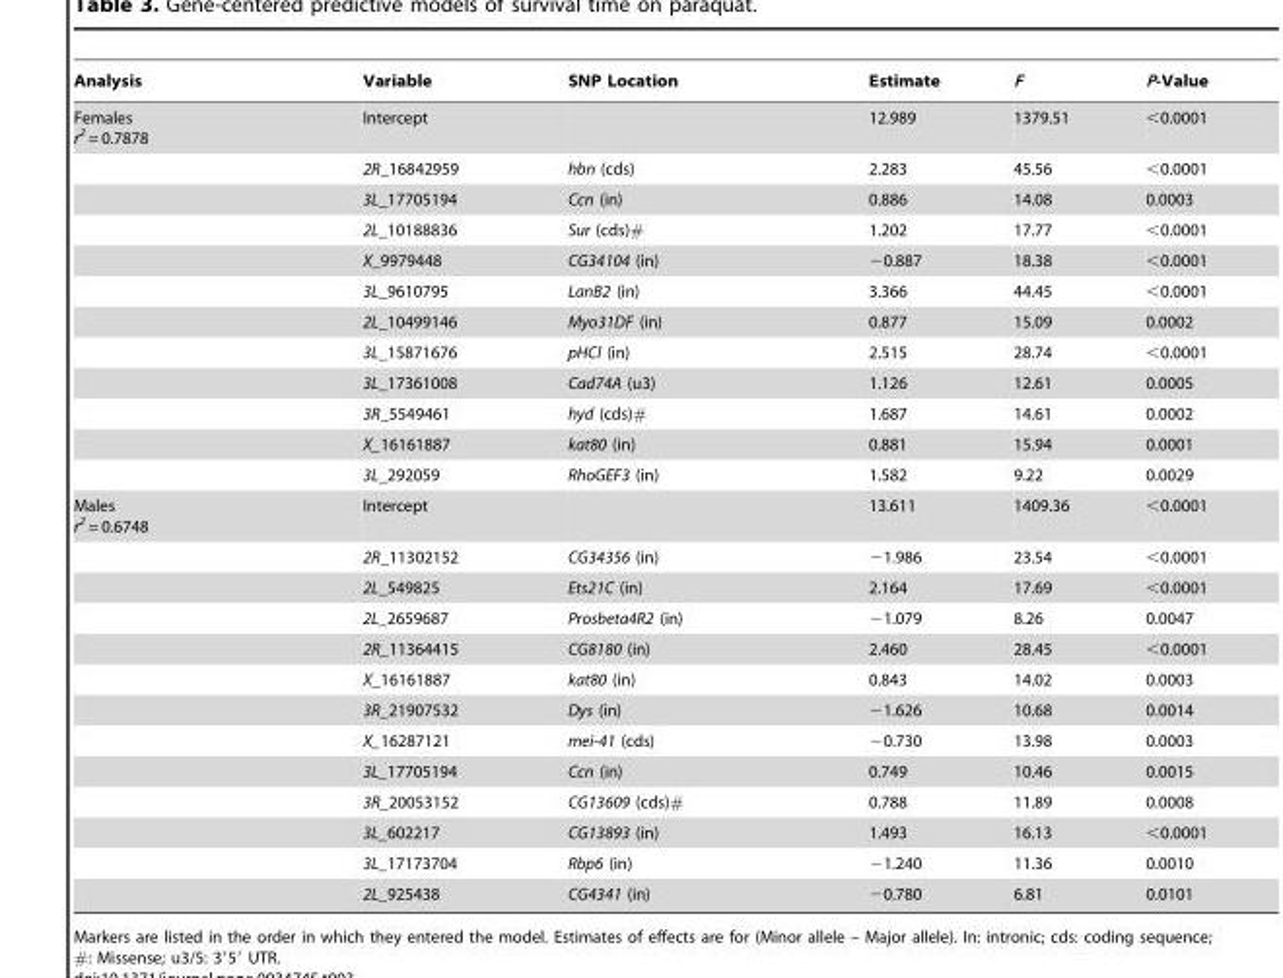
<table><thead><tr><td>Analysis</td><td>Variable</td><td>SNP Location</td><td>Estimate</td><td>F</td><td>P-Value</td></tr></thead><tbody><tr><td rowspan="12">Females r<sup>2</sup> = 0.7878</td><td>Intercept</td><td></td><td>12.989</td><td>1379.51</td><td>&lt;0.0001</td></tr><tr><td>2R_16842959</td><td>hbn (cds)</td><td>2.283</td><td>45.56</td><td>&lt;0.0001</td></tr><tr><td>3L_17705194</td><td>Ccn (in)</td><td>0.886</td><td>14.08</td><td>0.0003</td></tr><tr><td>2L_10188836</td><td>Sur (cds)#</td><td>1.202</td><td>17.77</td><td>&lt;0.0001</td></tr><tr><td>X_9979448</td><td>CG34104 (in)</td><td>−0.887</td><td>18.38</td><td>&lt;0.0001</td></tr><tr><td>3L_9610795</td><td>LanB2 (in)</td><td>3.366</td><td>44.45</td><td>&lt;0.0001</td></tr><tr><td>2L_10499146</td><td>Myo31DF (in)</td><td>0.877</td><td>15.09</td><td>0.0002</td></tr><tr><td>3L_15871676</td><td>pHCl (in)</td><td>2.515</td><td>28.74</td><td>&lt;0.0001</td></tr><tr><td>3L_17361008</td><td>Cad74A (u3)</td><td>1.126</td><td>12.61</td><td>0.0005</td></tr><tr><td>3R_5549461</td><td>hyd (cds)#</td><td>1.687</td><td>14.61</td><td>0.0002</td></tr><tr><td>X_16161887</td><td>kat80 (in)</td><td>0.881</td><td>15.94</td><td>0.0001</td></tr><tr><td>3L_292059</td><td>RhoGEF3 (in)</td><td>1.582</td><td>9.22</td><td>0.0029</td></tr><tr><td rowspan="13">Males r<sup>2</sup> = 0.6748</td><td>Intercept</td><td></td><td>13.611</td><td>1409.36</td><td>&lt;0.0001</td></tr><tr><td>2R_11302152</td><td>CG34356 (in)</td><td>−1.986</td><td>23.54</td><td>&lt;0.0001</td></tr><tr><td>2L_549825</td><td>Ets21C (in)</td><td>2.164</td><td>17.69</td><td>&lt;0.0001</td></tr><tr><td>2L_2659687</td><td>Prosbeta4R2 (in)</td><td>−1.079</td><td>8.26</td><td>0.0047</td></tr><tr><td>2R_11364415</td><td>CG8180 (in)</td><td>2.460</td><td>28.45</td><td>&lt;0.0001</td></tr><tr><td>X_16161887</td><td>kat80 (in)</td><td>0.843</td><td>14.02</td><td>0.0003</td></tr><tr><td>3R_21907532</td><td>Dys (in)</td><td>−1.626</td><td>10.68</td><td>0.0014</td></tr><tr><td>X_16287121</td><td>mei-41 (cds)</td><td>−0.730</td><td>13.98</td><td>0.0003</td></tr><tr><td>3L_17705194</td><td>Ccn (in)</td><td>0.749</td><td>10.46</td><td>0.0015</td></tr><tr><td>3R_20053152</td><td>CG13609 (cds)#</td><td>0.788</td><td>11.89</td><td>0.0008</td></tr><tr><td>3L_602217</td><td>CG13893 (in)</td><td>1.493</td><td>16.13</td><td>&lt;0.0001</td></tr><tr><td>3L_17173704</td><td>Rbp6 (in)</td><td>−1.240</td><td>11.36</td><td>0.0010</td></tr><tr><td>2L_925438</td><td>CG4341 (in)</td><td>−0.780</td><td>6.81</td><td>0.0101</td></tr></tbody></table>